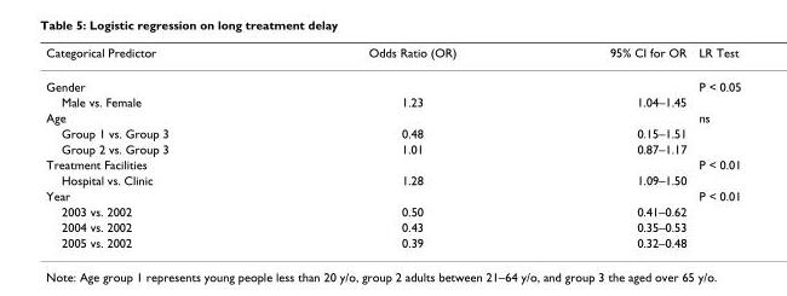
<table><thead><tr><td>Categorical Predictor</td><td>Odds Ratio (OR)</td><td>95% CI for OR</td><td>LR Test</td></tr></thead><tbody><tr><td>Gender</td><td></td><td></td><td>P &lt; 0.05</td></tr><tr><td>Male vs. Female</td><td>1.23</td><td>1.04–1.45</td><td></td></tr><tr><td>Age</td><td></td><td></td><td>ns</td></tr><tr><td>Group 1 vs. Group 3</td><td>0.48</td><td>0.15–1.51</td><td></td></tr><tr><td>Group 2 vs. Group 3</td><td>1.01</td><td>0.87–1.17</td><td></td></tr><tr><td>Treatment Facilities</td><td></td><td></td><td>P &lt; 0.01</td></tr><tr><td>Hospital vs. Clinic</td><td>1.28</td><td>1.09–1.50</td><td></td></tr><tr><td>Year</td><td></td><td></td><td>P &lt; 0.01</td></tr><tr><td>2003 vs. 2002</td><td>0.50</td><td>0.41–0.62</td><td></td></tr><tr><td>2004 vs. 2002</td><td>0.43</td><td>0.35–0.53</td><td></td></tr><tr><td>2005 vs. 2002</td><td>0.39</td><td>0.32–0.48</td><td></td></tr></tbody></table>